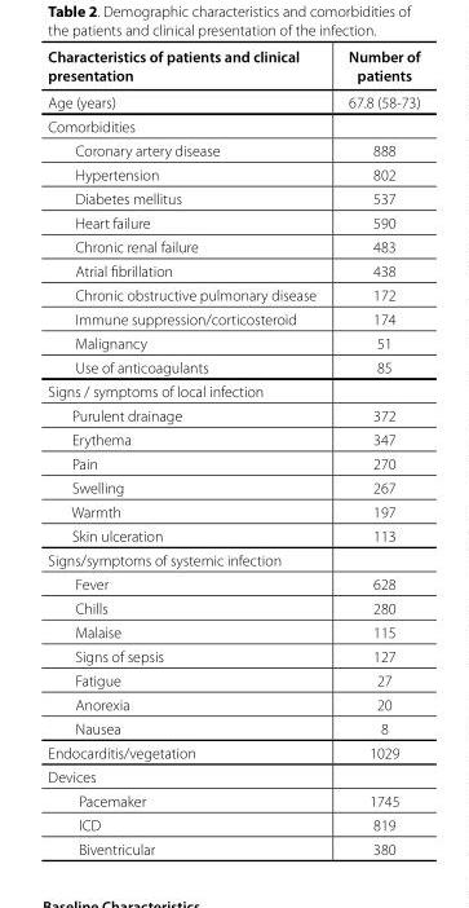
<table><thead><tr><td>Characteristics of patients and clinical presentation</td><td>Number of patients</td></tr></thead><tbody><tr><td>Age (years)</td><td>67.8 (58-73)</td></tr><tr><td colspan="2">Comorbidities</td></tr><tr><td>Coronary artery disease</td><td>888</td></tr><tr><td>Hypertension</td><td>802</td></tr><tr><td>Diabetes mellitus</td><td>537</td></tr><tr><td>Heart failure</td><td>590</td></tr><tr><td>Chronic renal failure</td><td>483</td></tr><tr><td>Atrial fibrillation</td><td>438</td></tr><tr><td>Chronic obstructive pulmonary disease</td><td>172</td></tr><tr><td>Immune suppression/corticosteroid</td><td>174</td></tr><tr><td>Malignancy</td><td>51</td></tr><tr><td>Use of anticoagulants</td><td>85</td></tr><tr><td colspan="2">Signs / symptoms of local infection</td></tr><tr><td>Purulent drainage</td><td>372</td></tr><tr><td>Erythema</td><td>347</td></tr><tr><td>Pain</td><td>270</td></tr><tr><td>Swelling</td><td>267</td></tr><tr><td>Warmth</td><td>197</td></tr><tr><td>Skin ulceration</td><td>113</td></tr><tr><td colspan="2">Signs/symptoms of systemic infection</td></tr><tr><td>Fever</td><td>628</td></tr><tr><td>Chills</td><td>280</td></tr><tr><td>Malaise</td><td>115</td></tr><tr><td>Signs of sepsis</td><td>127</td></tr><tr><td>Fatigue</td><td>27</td></tr><tr><td>Anorexia</td><td>20</td></tr><tr><td>Nausea</td><td>8</td></tr><tr><td>Endocarditis/vegetation</td><td>1029</td></tr><tr><td colspan="2">Devices</td></tr><tr><td>Pacemaker</td><td>1745</td></tr><tr><td>ICD</td><td>819</td></tr><tr><td>Biventricular</td><td>380</td></tr></tbody></table>